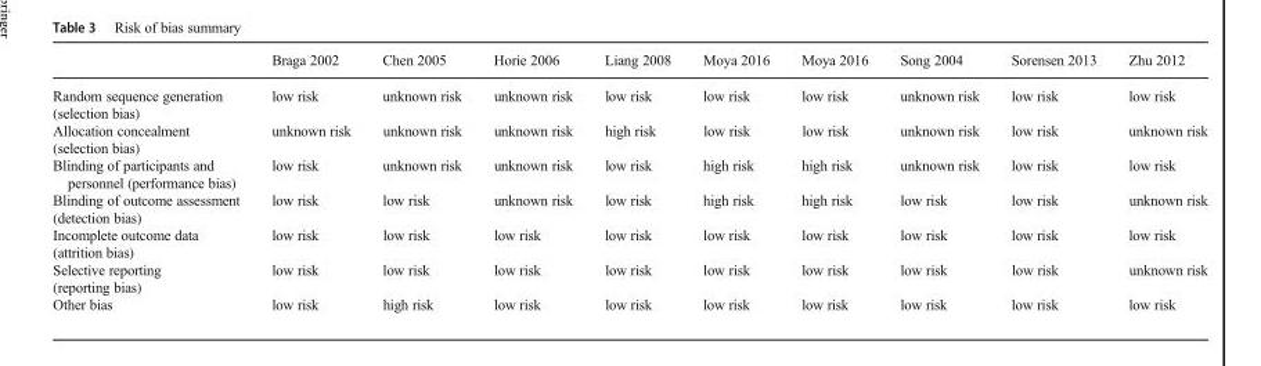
<table><thead><tr><td></td><td>Braga 2002</td><td>Chen 2005</td><td>Horie 2006</td><td>Liang 2008</td><td>Moya 2016</td><td>Moya 2016</td><td>Song 2004</td><td>Sorensen 2013</td><td>Zhu 2012</td></tr></thead><tbody><tr><td>Random sequence generation (selection bias)</td><td>low risk</td><td>unknown risk</td><td>unknown risk</td><td>low risk</td><td>low risk</td><td>low risk</td><td>unknown risk</td><td>low risk</td><td>low risk</td></tr><tr><td>Allocation concealment (selection bias)</td><td>unknown risk</td><td>unknown risk</td><td>unknown risk</td><td>high risk</td><td>low risk</td><td>low risk</td><td>unknown risk</td><td>low risk</td><td>unknown risk</td></tr><tr><td>Blinding of participants and personnel (performance bias)</td><td>low risk</td><td>unknown risk</td><td>unknown risk</td><td>low risk</td><td>high risk</td><td>high risk</td><td>unknown risk</td><td>low risk</td><td>low risk</td></tr><tr><td>Blinding of outcome assessment (detection bias)</td><td>low risk</td><td>low risk</td><td>unknown risk</td><td>low risk</td><td>high risk</td><td>high risk</td><td>low risk</td><td>low risk</td><td>unknown risk</td></tr><tr><td>Incomplete outcome data (attrition bias)</td><td>low risk</td><td>low risk</td><td>low risk</td><td>low risk</td><td>low risk</td><td>low risk</td><td>low risk</td><td>low risk</td><td>low risk</td></tr><tr><td>Selective reporting (reporting bias)</td><td>low risk</td><td>low risk</td><td>low risk</td><td>low risk</td><td>low risk</td><td>low risk</td><td>low risk</td><td>low risk</td><td>unknown risk</td></tr><tr><td>Other bias</td><td>low risk</td><td>high risk</td><td>low risk</td><td>low risk</td><td>low risk</td><td>low risk</td><td>low risk</td><td>low risk</td><td>low risk</td></tr></tbody></table>